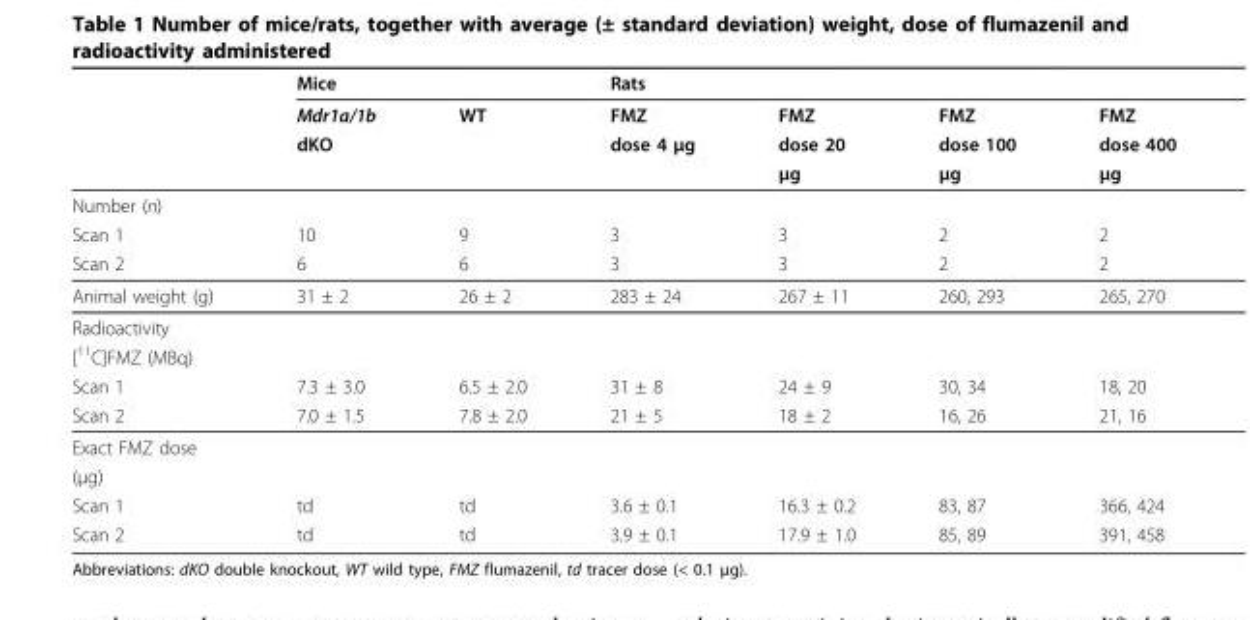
<table><thead><tr><td rowspan="4"></td><td rowspan="4">Mice Mdr1a/1b dKO</td><td rowspan="4">WT</td><td rowspan="4">Rats FMZ dose 4 μg</td><td rowspan="4">FMZ dose 20 μg</td><td rowspan="4">FMZ dose 100 μg</td><td rowspan="4">FMZ dose 400 μg</td></tr><tr></tr><tr></tr><tr></tr></thead><tbody><tr><td colspan="7">Number (n)</td></tr><tr><td>Scan 1</td><td>10</td><td>9</td><td>3</td><td>3</td><td>2</td><td>2</td></tr><tr><td>Scan 2</td><td>6</td><td>6</td><td>3</td><td>3</td><td>2</td><td>2</td></tr><tr><td>Animal weight (g)</td><td>31 ± 2</td><td>26 ± 2</td><td>283 ± 24</td><td>267 ± 11</td><td>260, 293</td><td>265, 270</td></tr><tr><td colspan="7">Radioactivity</td></tr><tr><td colspan="7">[<sup>11</sup>C]FMZ (MBq)</td></tr><tr><td>Scan 1</td><td>7.3 ± 3.0</td><td>6.5 ± 2.0</td><td>31 ± 8</td><td>24 ± 9</td><td>30, 34</td><td>18, 20</td></tr><tr><td>Scan 2</td><td>7.0 ± 1.5</td><td>7.8 ± 2.0</td><td>21 ± 5</td><td>18 ± 2</td><td>16, 26</td><td>21, 16</td></tr><tr><td colspan="7">Exact FMZ dose</td></tr><tr><td colspan="7">(μg)</td></tr><tr><td>Scan 1</td><td>td</td><td>td</td><td>3.6 ± 0.1</td><td>16.3 ± 0.2</td><td>83, 87</td><td>366, 424</td></tr><tr><td>Scan 2</td><td>td</td><td>td</td><td>3.9 ± 0.1</td><td>17.9 ± 1.0</td><td>85, 89</td><td>391, 458</td></tr></tbody></table>